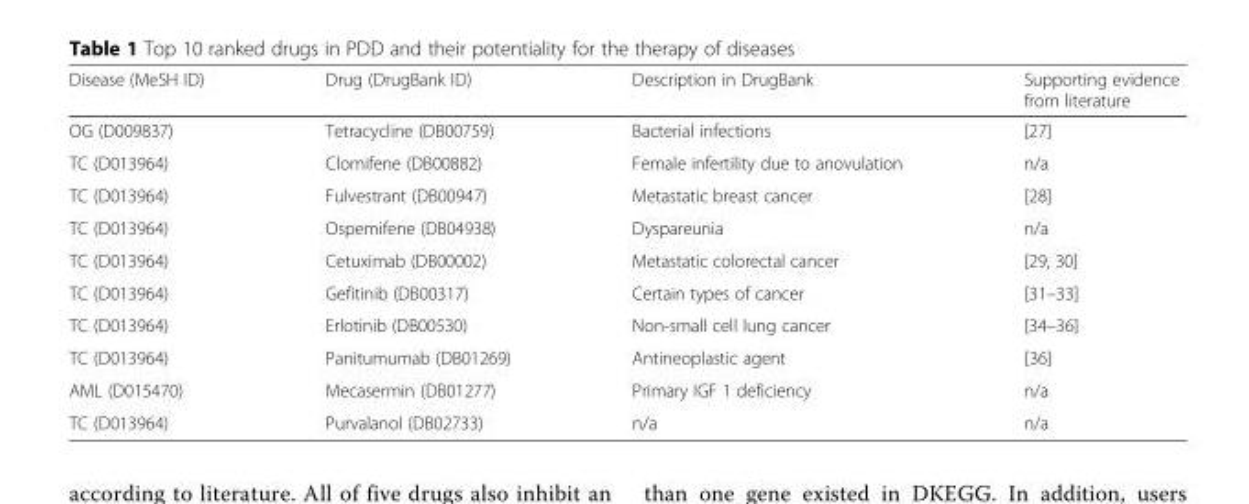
<table><thead><tr><td>Disease (MeSH ID)</td><td>Drug (DrugBank ID)</td><td>Description in DrugBank</td><td>Supporting evidence from literature</td></tr></thead><tbody><tr><td>OG (D009837)</td><td>Tetracycline (DB00759)</td><td>Bacterial infections</td><td>[27]</td></tr><tr><td>TC (D013964)</td><td>Clomifene (DB00882)</td><td>Female infertility due to anovulation</td><td>n/a</td></tr><tr><td>TC (D013964)</td><td>Fulvestrant (DB00947)</td><td>Metastatic breast cancer</td><td>[28]</td></tr><tr><td>TC (D013964)</td><td>Ospemifene (DB04938)</td><td>Dyspareunia</td><td>n/a</td></tr><tr><td>TC (D013964)</td><td>Cetuximab (DB00002)</td><td>Metastatic colorectal cancer</td><td>[29, 30]</td></tr><tr><td>TC (D013964)</td><td>Gefitinib (DB00317)</td><td>Certain types of cancer</td><td>[31–33]</td></tr><tr><td>TC (D013964)</td><td>Erlotinib (DB00530)</td><td>Non-small cell lung cancer</td><td>[34–36]</td></tr><tr><td>TC (D013964)</td><td>Panitumumab (DB01269)</td><td>Antineoplastic agent</td><td>[36]</td></tr><tr><td>AML (D015470)</td><td>Mecasermin (DB01277)</td><td>Primary IGF 1 deficiency</td><td>n/a</td></tr><tr><td>TC (D013964)</td><td>Purvalanol (DB02733)</td><td>n/a</td><td>n/a</td></tr></tbody></table>